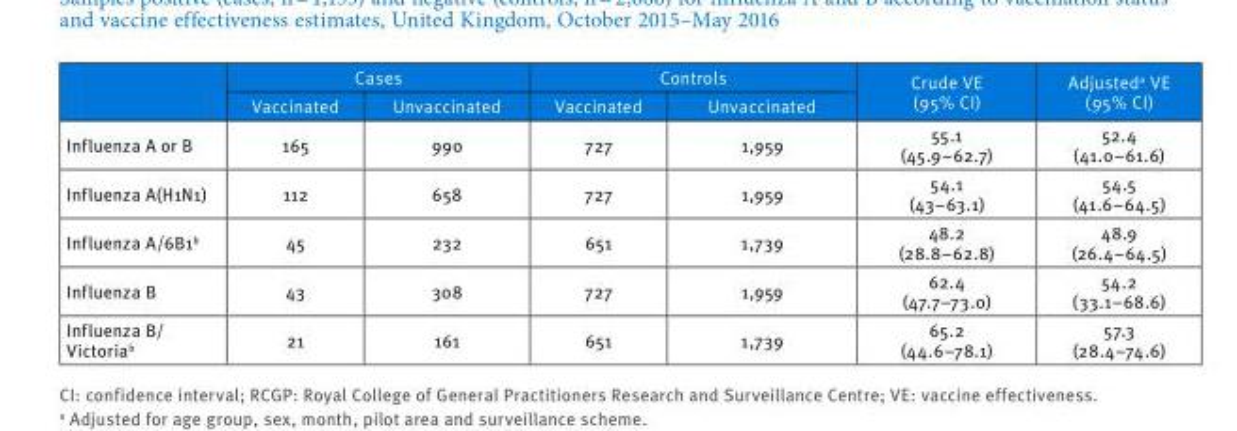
<table><thead><tr><td rowspan="2"></td><td colspan="2">Cases</td><td colspan="2">Controls</td><td rowspan="2">Crude VE (95% CI)</td><td rowspan="2">Adjusted<sup>a</sup> VE (95% CI)</td></tr><tr><td>Vaccinated</td><td>Unvaccinated</td><td>Vaccinated</td><td>Unvaccinated</td></tr></thead><tbody><tr><td>Influenza A or B</td><td>165</td><td>990</td><td>727</td><td>1,959</td><td>55.1 (45.9–62.7)</td><td>52.4 (41.0–61.6)</td></tr><tr><td>Influenza A(H1N1)</td><td>112</td><td>658</td><td>727</td><td>1,959</td><td>54.1 (43–63.1)</td><td>54.5 (41.6–64.5)</td></tr><tr><td>Influenza A/6B1<sup>b</sup></td><td>45</td><td>232</td><td>651</td><td>1,739</td><td>48.2 (28.8–62.8)</td><td>48.9 (26.4–64.5)</td></tr><tr><td>Influenza B</td><td>43</td><td>308</td><td>727</td><td>1,959</td><td>62.4 (47.7–73.0)</td><td>54.2 (33.1–68.6)</td></tr><tr><td>Influenza B/ Victoria<sup>b</sup></td><td>21</td><td>161</td><td>651</td><td>1,739</td><td>65.2 (44.6–78.1)</td><td>57.3 (28.4–74.6)</td></tr></tbody></table>